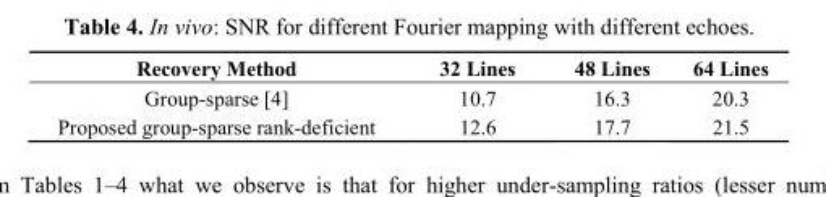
<table><thead><tr><td>Recovery Method</td><td>32 Lines</td><td>48 Lines</td><td>64 Lines</td></tr></thead><tbody><tr><td>Group-sparse [4]</td><td>10.7</td><td>16.3</td><td>20.3</td></tr><tr><td>Proposed group-sparse rank-deficient</td><td>12.6</td><td>17.7</td><td>21.5</td></tr></tbody></table>